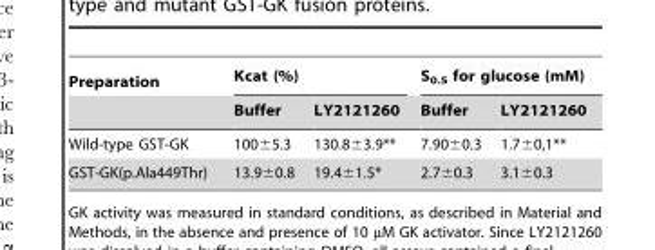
<table><thead><tr><td rowspan="2">Preparation</td><td colspan="2">Kcat (%)</td><td colspan="2">S<sub>0.5</sub> for glucose (mM)</td></tr><tr><td>Buffer</td><td>LY2121260</td><td>Buffer</td><td>LY2121260</td></tr></thead><tbody><tr><td>Wild-type GST-GK</td><td>100±5.3</td><td>130.8±3.9**</td><td>7.90±0.3</td><td>1.7±0,1**</td></tr><tr><td>GST-GK(p.Ala449Thr)</td><td>13.9±0.8</td><td>19.4±1.5*</td><td>2.7±0.3</td><td>3.1±0.3</td></tr></tbody></table>